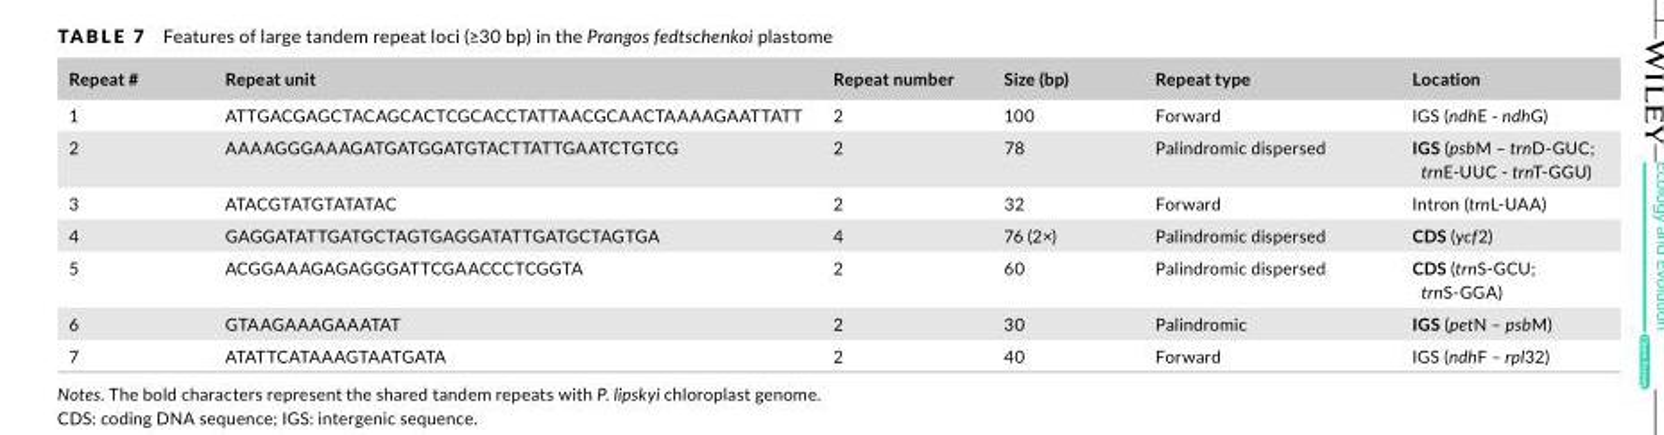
<table><thead><tr><td>Repeat #</td><td>Repeat unit</td><td>Repeat number</td><td>Size (bp)</td><td>Repeat type</td><td>Location</td></tr></thead><tbody><tr><td>1</td><td>ATTGACGAGCTACAGCACTCGCACCTATTAACGCAACTAAAAGAATTATT</td><td>2</td><td>100</td><td>Forward</td><td>IGS (ndhE ‐ ndhG)</td></tr><tr><td>2</td><td>AAAAGGGAAAGATGATGGATGTACTTATTGAATCTGTCG</td><td>2</td><td>78</td><td>Palindromic dispersed</td><td>IGS (psbM – trnD‐GUC; trnE‐UUC ‐ trnT‐GGU)</td></tr><tr><td>3</td><td>ATACGTATGTATATAC</td><td>2</td><td>32</td><td>Forward</td><td>Intron (trnL‐UAA)</td></tr><tr><td>4</td><td>GAGGATATTGATGCTAGTGAGGATATTGATGCTAGTGA</td><td>4</td><td>76 (2×)</td><td>Palindromic dispersed</td><td>CDS (ycf2)</td></tr><tr><td>5</td><td>ACGGAAAGAGAGGGATTCGAACCCTCGGTA</td><td>2</td><td>60</td><td>Palindromic dispersed</td><td>CDS (trnS‐GCU; trnS‐GGA)</td></tr><tr><td>6</td><td>GTAAGAAAGAAATAT</td><td>2</td><td>30</td><td>Palindromic</td><td>IGS (petN – psbM)</td></tr><tr><td>7</td><td>ATATTCATAAAGTAATGATA</td><td>2</td><td>40</td><td>Forward</td><td>IGS (ndhF – rpl32)</td></tr></tbody></table>